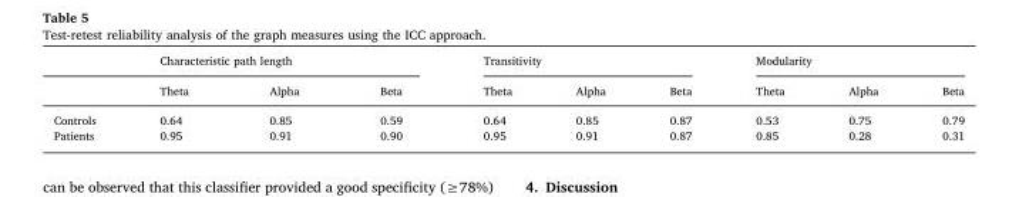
<table><thead><tr><td rowspan="2"></td><td colspan="3">Characteristic path length</td><td colspan="3">Transitivity</td><td colspan="3">Modularity</td></tr><tr><td>Theta</td><td>Alpha</td><td>Beta</td><td>Theta</td><td>Alpha</td><td>Beta</td><td>Theta</td><td>Alpha</td><td>Beta</td></tr></thead><tbody><tr><td>Controls</td><td>0.64</td><td>0.85</td><td>0.59</td><td>0.64</td><td>0.85</td><td>0.87</td><td>0.53</td><td>0.75</td><td>0.79</td></tr><tr><td>Patients</td><td>0.95</td><td>0.91</td><td>0.90</td><td>0.95</td><td>0.91</td><td>0.87</td><td>0.85</td><td>0.28</td><td>0.31</td></tr></tbody></table>